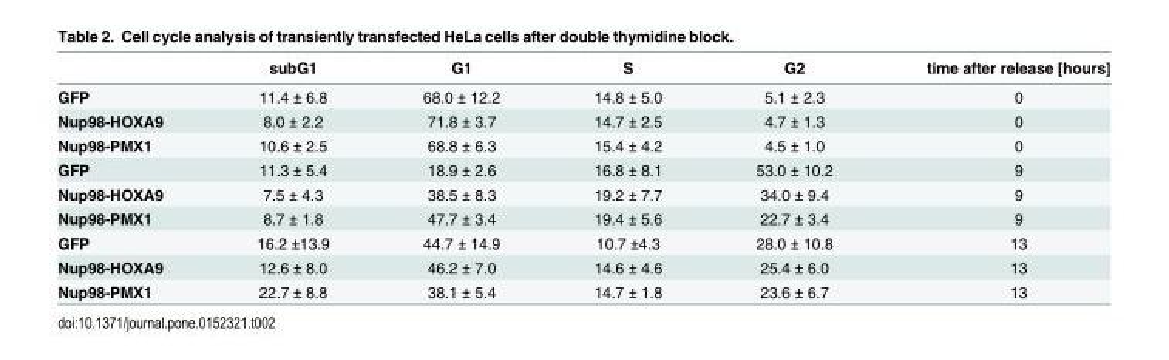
<table><thead><tr><td></td><td>subG1</td><td>G1</td><td>S</td><td>G2</td><td>time after release [hours]</td></tr></thead><tbody><tr><td>GFP</td><td>11.4 ± 6.8</td><td>68.0 ± 12.2</td><td>14.8 ± 5.0</td><td>5.1 ± 2.3</td><td>0</td></tr><tr><td>Nup98-HOXA9</td><td>8.0 ± 2.2</td><td>71.8 ± 3.7</td><td>14.7 ± 2.5</td><td>4.7 ± 1.3</td><td>0</td></tr><tr><td>Nup98-PMX1</td><td>10.6 ± 2.5</td><td>68.8 ± 6.3</td><td>15.4 ± 4.2</td><td>4.5 ± 1.0</td><td>0</td></tr><tr><td>GFP</td><td>11.3 ± 5.4</td><td>18.9 ± 2.6</td><td>16.8 ± 8.1</td><td>53.0 ± 10.2</td><td>9</td></tr><tr><td>Nup98-HOXA9</td><td>7.5 ± 4.3</td><td>38.5 ± 8.3</td><td>19.2 ± 7.7</td><td>34.0 ± 9.4</td><td>9</td></tr><tr><td>Nup98-PMX1</td><td>8.7 ± 1.8</td><td>47.7 ± 3.4</td><td>19.4 ± 5.6</td><td>22.7 ± 3.4</td><td>9</td></tr><tr><td>GFP</td><td>16.2 ±13.9</td><td>44.7 ± 14.9</td><td>10.7 ±4.3</td><td>28.0 ± 10.8</td><td>13</td></tr><tr><td>Nup98-HOXA9</td><td>12.6 ± 8.0</td><td>46.2 ± 7.0</td><td>14.6 ± 4.6</td><td>25.4 ± 6.0</td><td>13</td></tr><tr><td>Nup98-PMX1</td><td>22.7 ± 8.8</td><td>38.1 ± 5.4</td><td>14.7 ± 1.8</td><td>23.6 ± 6.7</td><td>13</td></tr></tbody></table>